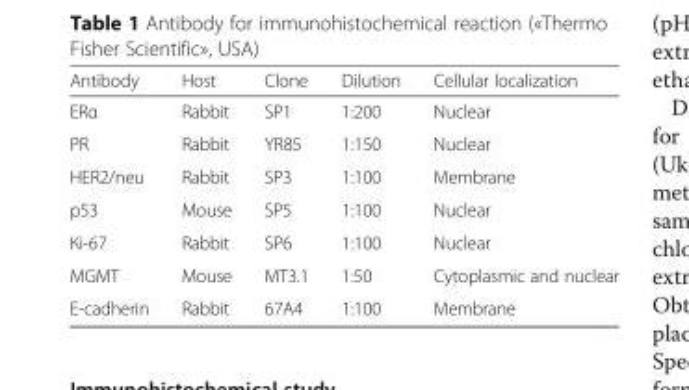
<table><thead><tr><td>Antibody</td><td>Host</td><td>Clone</td><td>Dilution</td><td>Cellular localization</td></tr></thead><tbody><tr><td>ERα</td><td>Rabbit</td><td>SP1</td><td>1:200</td><td>Nuclear</td></tr><tr><td>PR</td><td>Rabbit</td><td>YR85</td><td>1:150</td><td>Nuclear</td></tr><tr><td>HER2/neu</td><td>Rabbit</td><td>SP3</td><td>1:100</td><td>Membrane</td></tr><tr><td>p53</td><td>Mouse</td><td>SP5</td><td>1:100</td><td>Nuclear</td></tr><tr><td>Кі-67</td><td>Rabbit</td><td>SP6</td><td>1:100</td><td>Nuclear</td></tr><tr><td>MGMT</td><td>Mouse</td><td>МТ3.1</td><td>1:50</td><td>Cytoplasmic and nuclear</td></tr><tr><td>E-cadherin</td><td>Rabbit</td><td>67A4</td><td>1:100</td><td>Membrane</td></tr></tbody></table>